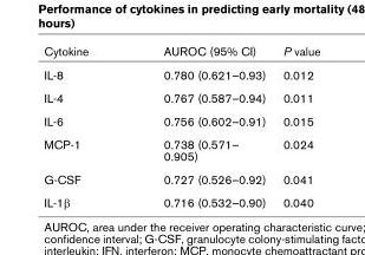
<table><thead><tr><td>Cytokine</td><td>AUROC (95% CI)</td><td>P value</td></tr></thead><tbody><tr><td>IL-8</td><td>0.780 (0.621–0.93)</td><td>0.012</td></tr><tr><td>IL-4</td><td>0.767 (0.587–0.94)</td><td>0.011</td></tr><tr><td>IL-6</td><td>0.756 (0.602–0.91)</td><td>0.015</td></tr><tr><td>MCP-1</td><td>0.738 (0.571– 0.905)</td><td>0.024</td></tr><tr><td>G-CSF</td><td>0.727 (0.526–0.92)</td><td>0.041</td></tr><tr><td>IL-1β</td><td>0.716 (0.532–0.90)</td><td>0.040</td></tr></tbody></table>